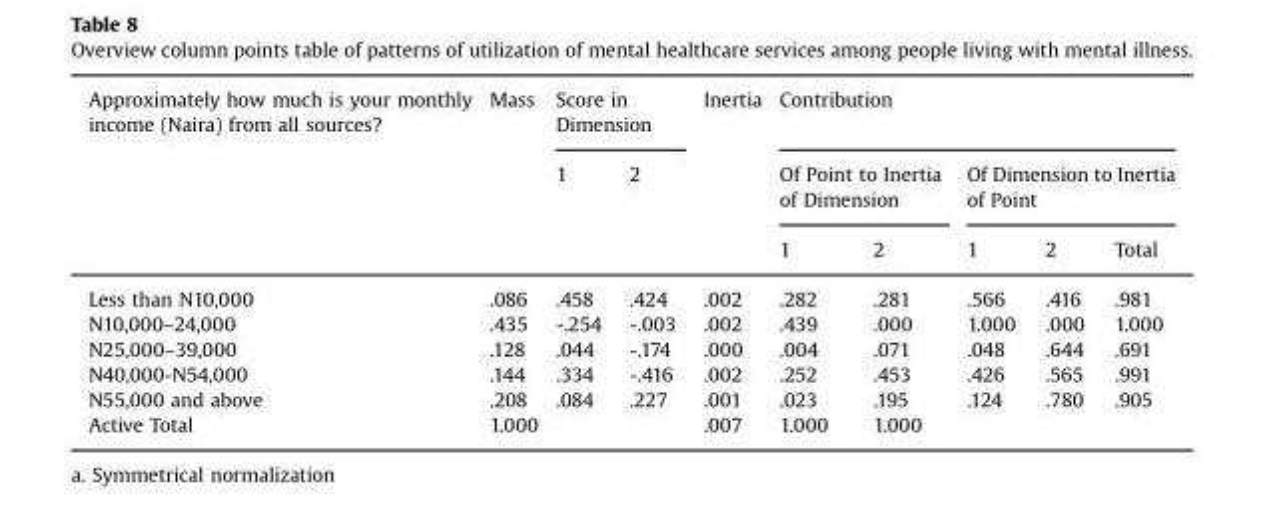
<table><thead><tr><td rowspan="3">Approximately how much is your monthly income (Naira) from all sources?</td><td rowspan="3">Mass</td><td colspan="2">Score in Dimension</td><td rowspan="3">Inertia</td><td colspan="5">Contribution</td></tr><tr><td rowspan="2">1</td><td rowspan="2">2</td><td colspan="2">Of Point to Inertia of Dimension</td><td colspan="3">Of Dimension to Inertia of Point</td></tr><tr><td>1</td><td>2</td><td>1</td><td>2</td><td>Total</td></tr></thead><tbody><tr><td>Less than N10,000</td><td>.086</td><td>.458</td><td>.424</td><td>.002</td><td>.282</td><td>.281</td><td>.566</td><td>.416</td><td>.981</td></tr><tr><td>N10,000–24,000</td><td>.435</td><td>-.254</td><td>-.003</td><td>.002</td><td>.439</td><td>.000</td><td>1.000</td><td>.000</td><td>1.000</td></tr><tr><td>N25,000–39,000</td><td>.128</td><td>.044</td><td>-.174</td><td>.000</td><td>.004</td><td>.071</td><td>.048</td><td>.644</td><td>.691</td></tr><tr><td>N40,000-N54,000</td><td>.144</td><td>.334</td><td>-.416</td><td>.002</td><td>.252</td><td>.453</td><td>.426</td><td>.565</td><td>.991</td></tr><tr><td>N55,000 and above</td><td>.208</td><td>.084</td><td>.227</td><td>.001</td><td>.023</td><td>.195</td><td>.124</td><td>.780</td><td>.905</td></tr><tr><td>Active Total</td><td>1.000</td><td></td><td></td><td>.007</td><td>1.000</td><td>1.000</td><td></td><td></td><td></td></tr></tbody></table>